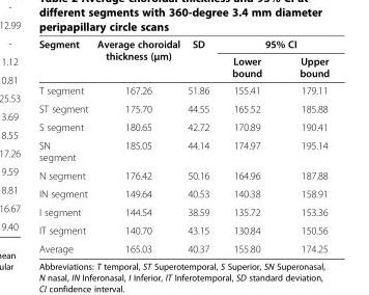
<table><thead><tr><td rowspan="2">Segment</td><td rowspan="2">Average choroidal thickness (μm)</td><td rowspan="2">SD</td><td colspan="2">95% CI</td></tr><tr><td>Lower bound</td><td>Upper bound</td></tr></thead><tbody><tr><td>T segment</td><td>167.26</td><td>51.86</td><td>155.41</td><td>179.11</td></tr><tr><td>ST segment</td><td>175.70</td><td>44.55</td><td>165.52</td><td>185.88</td></tr><tr><td>S segment</td><td>180.65</td><td>42.72</td><td>170.89</td><td>190.41</td></tr><tr><td>SN segment</td><td>185.05</td><td>44.14</td><td>174.97</td><td>195.14</td></tr><tr><td>N segment</td><td>176.42</td><td>50.16</td><td>164.96</td><td>187.88</td></tr><tr><td>IN segment</td><td>149.64</td><td>40.53</td><td>140.38</td><td>158.91</td></tr><tr><td>I segment</td><td>144.54</td><td>38.59</td><td>135.72</td><td>153.36</td></tr><tr><td>IT segment</td><td>140.70</td><td>43.15</td><td>130.84</td><td>150.56</td></tr><tr><td>Average</td><td>165.03</td><td>40.37</td><td>155.80</td><td>174.25</td></tr></tbody></table>